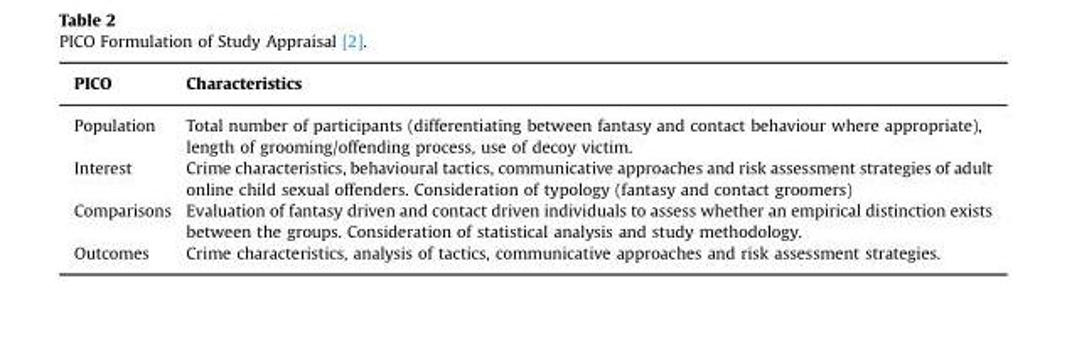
<table><thead><tr><td>PICO</td><td>Characteristics</td></tr></thead><tbody><tr><td>Population</td><td>Total number of participants (differentiating between fantasy and contact behaviour where appropriate), length of grooming/offending process, use of decoy victim.</td></tr><tr><td>Interest</td><td>Crime characteristics, behavioural tactics, communicative approaches and risk assessment strategies of adult online child sexual offenders. Consideration of typology (fantasy and contact groomers)</td></tr><tr><td>Comparisons</td><td>Evaluation of fantasy driven and contact driven individuals to assess whether an empirical distinction exists between the groups. Consideration of statistical analysis and study methodology.</td></tr><tr><td>Outcomes</td><td>Crime characteristics, analysis of tactics, communicative approaches and risk assessment strategies.</td></tr></tbody></table>